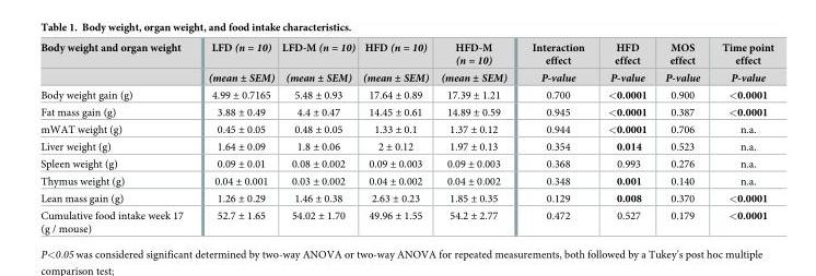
<table><thead><tr><td rowspan="2">Body weight and organ weight</td><td rowspan="2">LFD (n = 10) (mean ± SEM)</td><td rowspan="2">LFD-M (n = 10) (mean ± SEM)</td><td rowspan="2">HFD (n = 10) (mean ± SEM)</td><td rowspan="2">HFD-M (n = 10) (mean ± SEM)</td><td rowspan="2">Interaction effect P-value</td><td rowspan="2">HFD effect P-value</td><td rowspan="2">MOS effect P-value</td><td rowspan="2">Time point effect P-value</td></tr><tr></tr></thead><tbody><tr><td>Body weight gain (g)</td><td>4.99 ± 0.7165</td><td>5.48 ± 0.93</td><td>17.64 ± 0.89</td><td>17.39 ± 1.21</td><td>0.700</td><td>&lt;0.0001</td><td>0.900</td><td>&lt;0.0001</td></tr><tr><td>Fat mass gain (g)</td><td>3.88 ± 0.49</td><td>4.4 ± 0.47</td><td>14.45 ± 0.61</td><td>14.89 ± 0.59</td><td>0.945</td><td>&lt;0.0001</td><td>0.387</td><td>&lt;0.0001</td></tr><tr><td>mWAT weight (g)</td><td>0.45 ± 0.05</td><td>0.48 ± 0.05</td><td>1.33 ± 0.1</td><td>1.37 ± 0.12</td><td>0.944</td><td>&lt;0.0001</td><td>0.706</td><td>n.a.</td></tr><tr><td>Liver weight (g)</td><td>1.64 ± 0.09</td><td>1.8 ± 0.06</td><td>2 ± 0.12</td><td>1.97 ± 0.13</td><td>0.354</td><td>0.014</td><td>0.523</td><td>n.a.</td></tr><tr><td>Spleen weight (g)</td><td>0.09 ± 0.01</td><td>0.08 ± 0.002</td><td>0.09 ± 0.003</td><td>0.09 ± 0.003</td><td>0.368</td><td>0.993</td><td>0.276</td><td>n.a.</td></tr><tr><td>Thymus weight (g)</td><td>0.04 ± 0.001</td><td>0.03 ± 0.002</td><td>0.04 ± 0.002</td><td>0.04 ± 0.002</td><td>0.348</td><td>0.001</td><td>0.140</td><td>n.a.</td></tr><tr><td>Lean mass gain (g)</td><td>1.26 ± 0.29</td><td>1.46 ± 0.38</td><td>2.63 ± 0.23</td><td>1.85 ± 0.35</td><td>0.129</td><td>0.008</td><td>0.370</td><td>&lt;0.0001</td></tr><tr><td>Cumulative food intake week 17 (g / mouse)</td><td>52.7 ± 1.65</td><td>54.02 ± 1.70</td><td>49.96 ± 1.55</td><td>54.2 ± 2.77</td><td>0.472</td><td>0.527</td><td>0.179</td><td>&lt;0.0001</td></tr></tbody></table>